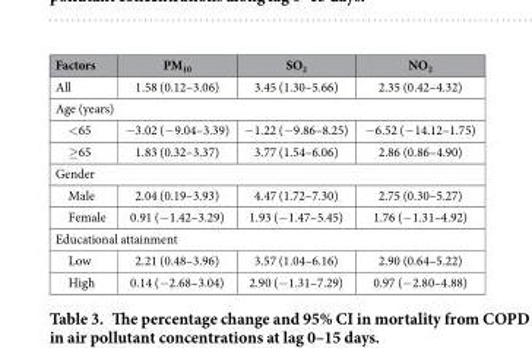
<table><thead><tr><td>Factors</td><td>PM<sub>10</sub></td><td>SO<sub>2</sub></td><td>NO<sub>2</sub></td></tr></thead><tbody><tr><td>All</td><td>1.58 (0.12–3.06)</td><td>3.45 (1.30–5.66)</td><td>2.35 (0.42–4.32)</td></tr><tr><td colspan="4">Age (years)</td></tr><tr><td>&lt; 65</td><td>− 3.02 (− 9.04–3.39)</td><td>− 1.22 (− 9.86–8.25)</td><td>− 6.52 (− 14.12–1.75)</td></tr><tr><td>≥ 65</td><td>1.83 (0.32–3.37)</td><td>3.77 (1.54–6.06)</td><td>2.86 (0.86–4.90)</td></tr><tr><td colspan="4">Gender</td></tr><tr><td>Male</td><td>2.04 (0.19–3.93)</td><td>4.47 (1.72–7.30)</td><td>2.75 (0.30–5.27)</td></tr><tr><td>Female</td><td>0.91 (− 1.42–3.29)</td><td>1.93 (− 1.47–5.45)</td><td>1.76 (− 1.31–4.92)</td></tr><tr><td colspan="4">Educational attainment</td></tr><tr><td>Low</td><td>2.21 (0.48–3.96)</td><td>3.57 (1.04–6.16)</td><td>2.90 (0.64–5.22)</td></tr><tr><td>High</td><td>0.14 (− 2.68–3.04)</td><td>2.90 (− 1.31–7.29)</td><td>0.97 (− 2.80–4.88)</td></tr></tbody></table>